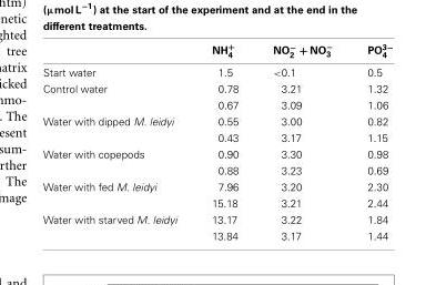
<table><thead><tr><td></td><td>NH<sup>+</sup> <sub>4</sub></td><td>NO<sup>−</sup> <sub>2</sub> + NO<sup>−</sup> <sub>3</sub></td><td>PO<sup>3−</sup> <sub>4</sub></td></tr></thead><tbody><tr><td>Start water</td><td>1.5</td><td>&lt;0.1</td><td>0.5</td></tr><tr><td rowspan="2">Control water</td><td>0.78</td><td>3.21</td><td>1.32</td></tr><tr><td>0.67</td><td>3.09</td><td>1.06</td></tr><tr><td rowspan="2">Water with dipped M. leidyi</td><td>0.55</td><td>3.00</td><td>0.82</td></tr><tr><td>0.43</td><td>3.17</td><td>1.15</td></tr><tr><td rowspan="2">Water with copepods</td><td>0.90</td><td>3.30</td><td>0.98</td></tr><tr><td>0.88</td><td>3.23</td><td>0.69</td></tr><tr><td rowspan="2">Water with fed M. leidyi</td><td>7.96</td><td>3.20</td><td>2.30</td></tr><tr><td>15.18</td><td>3.21</td><td>2.44</td></tr><tr><td rowspan="2">Water with starved M. leidyi</td><td>13.17</td><td>3.22</td><td>1.84</td></tr><tr><td>13.84</td><td>3.17</td><td>1.44</td></tr></tbody></table>